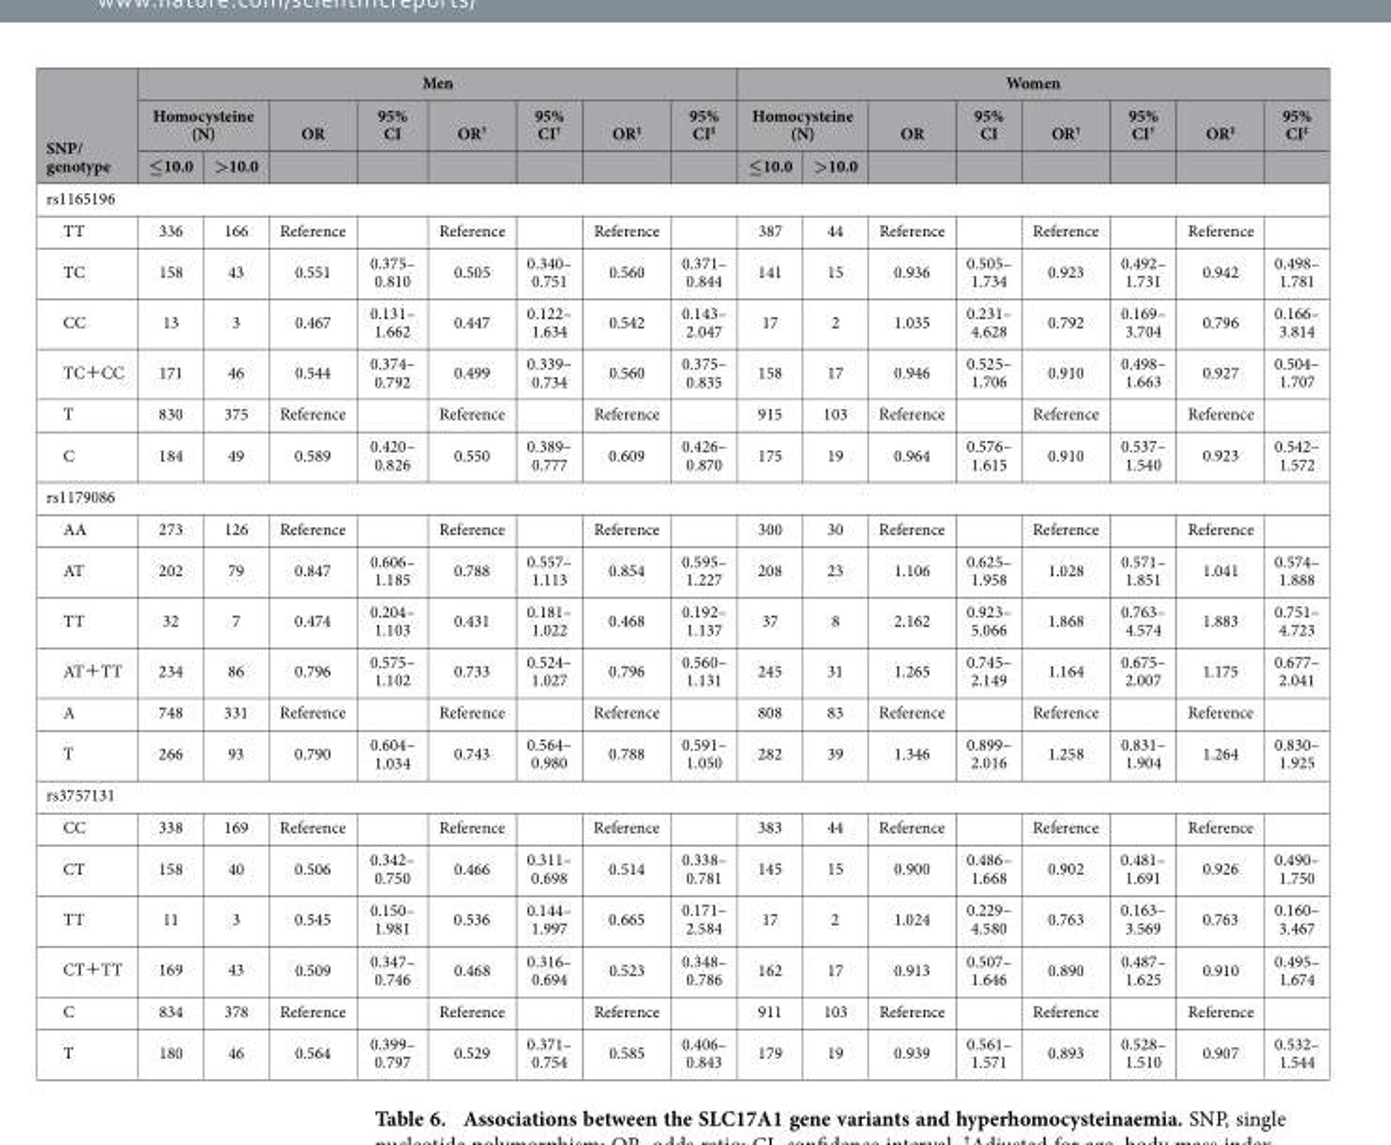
<table><thead><tr><td rowspan="3">SNP/ genotype</td><td colspan="8">Men</td><td colspan="8">Women</td></tr><tr><td colspan="2">Homocysteine (N)</td><td rowspan="2">OR</td><td rowspan="2">95% CI</td><td rowspan="2">OR†</td><td rowspan="2">95% CI†</td><td rowspan="2">OR‡</td><td rowspan="2">95% CI‡</td><td colspan="2">Homocysteine (N)</td><td rowspan="2">OR</td><td rowspan="2">95% CI</td><td rowspan="2">OR†</td><td rowspan="2">95% CI†</td><td rowspan="2">OR‡</td><td rowspan="2">95% CI‡</td></tr><tr><td>≤10.0</td><td>&gt;10.0</td><td>≤10.0</td><td>&gt;10.0</td></tr></thead><tbody><tr><td colspan="17">rs1165196</td></tr><tr><td>TT</td><td>336</td><td>166</td><td>Reference</td><td></td><td>Reference</td><td></td><td>Reference</td><td></td><td>387</td><td>44</td><td>Reference</td><td></td><td>Reference</td><td></td><td>Reference</td><td></td></tr><tr><td>TC</td><td>158</td><td>43</td><td>0.551</td><td>0.375– 0.810</td><td>0.505</td><td>0.340– 0.751</td><td>0.560</td><td>0.371– 0.844</td><td>141</td><td>15</td><td>0.936</td><td>0.505– 1.734</td><td>0.923</td><td>0.492– 1.731</td><td>0.942</td><td>0.498– 1.781</td></tr><tr><td>CC</td><td>13</td><td>3</td><td>0.467</td><td>0.131– 1.662</td><td>0.447</td><td>0.122– 1.634</td><td>0.542</td><td>0.143– 2.047</td><td>17</td><td>2</td><td>1.035</td><td>0.231– 4.628</td><td>0.792</td><td>0.169– 3.704</td><td>0.796</td><td>0.166– 3.814</td></tr><tr><td>TC＋CC</td><td>171</td><td>46</td><td>0.544</td><td>0.374– 0.792</td><td>0.499</td><td>0.339– 0.734</td><td>0.560</td><td>0.375– 0.835</td><td>158</td><td>17</td><td>0.946</td><td>0.525– 1.706</td><td>0.910</td><td>0.498– 1.663</td><td>0.927</td><td>0.504– 1.707</td></tr><tr><td>T</td><td>830</td><td>375</td><td>Reference</td><td></td><td>Reference</td><td></td><td>Reference</td><td></td><td>915</td><td>103</td><td>Reference</td><td></td><td>Reference</td><td></td><td>Reference</td><td></td></tr><tr><td>C</td><td>184</td><td>49</td><td>0.589</td><td>0.420– 0.826</td><td>0.550</td><td>0.389– 0.777</td><td>0.609</td><td>0.426– 0.870</td><td>175</td><td>19</td><td>0.964</td><td>0.576– 1.615</td><td>0.910</td><td>0.537– 1.540</td><td>0.923</td><td>0.542– 1.572</td></tr><tr><td colspan="17">rs1179086</td></tr><tr><td>AA</td><td>273</td><td>126</td><td>Reference</td><td></td><td>Reference</td><td></td><td>Reference</td><td></td><td>300</td><td>30</td><td>Reference</td><td></td><td>Reference</td><td></td><td>Reference</td><td></td></tr><tr><td>AT</td><td>202</td><td>79</td><td>0.847</td><td>0.606– 1.185</td><td>0.788</td><td>0.557– 1.113</td><td>0.854</td><td>0.595– 1.227</td><td>208</td><td>23</td><td>1.106</td><td>0.625– 1.958</td><td>1.028</td><td>0.571– 1.851</td><td>1.041</td><td>0.574– 1.888</td></tr><tr><td>TT</td><td>32</td><td>7</td><td>0.474</td><td>0.204– 1.103</td><td>0.431</td><td>0.181– 1.022</td><td>0.468</td><td>0.192– 1.137</td><td>37</td><td>8</td><td>2.162</td><td>0.923– 5.066</td><td>1.868</td><td>0.763– 4.574</td><td>1.883</td><td>0.751– 4.723</td></tr><tr><td>AT＋TT</td><td>234</td><td>86</td><td>0.796</td><td>0.575– 1.102</td><td>0.733</td><td>0.524– 1.027</td><td>0.796</td><td>0.560– 1.131</td><td>245</td><td>31</td><td>1.265</td><td>0.745– 2.149</td><td>1.164</td><td>0.675– 2.007</td><td>1.175</td><td>0.677– 2.041</td></tr><tr><td>A</td><td>748</td><td>331</td><td>Reference</td><td></td><td>Reference</td><td></td><td>Reference</td><td></td><td>808</td><td>83</td><td>Reference</td><td></td><td>Reference</td><td></td><td>Reference</td><td></td></tr><tr><td>T</td><td>266</td><td>93</td><td>0.790</td><td>0.604– 1.034</td><td>0.743</td><td>0.564– 0.980</td><td>0.788</td><td>0.591– 1.050</td><td>282</td><td>39</td><td>1.346</td><td>0.899– 2.016</td><td>1.258</td><td>0.831– 1.904</td><td>1.264</td><td>0.830– 1.925</td></tr><tr><td colspan="17">rs3757131</td></tr><tr><td>CC</td><td>338</td><td>169</td><td>Reference</td><td></td><td>Reference</td><td></td><td>Reference</td><td></td><td>383</td><td>44</td><td>Reference</td><td></td><td>Reference</td><td></td><td>Reference</td><td></td></tr><tr><td>CT</td><td>158</td><td>40</td><td>0.506</td><td>0.342– 0.750</td><td>0.466</td><td>0.311– 0.698</td><td>0.514</td><td>0.338– 0.781</td><td>145</td><td>15</td><td>0.900</td><td>0.486– 1.668</td><td>0.902</td><td>0.481– 1.691</td><td>0.926</td><td>0.490– 1.750</td></tr><tr><td>TT</td><td>11</td><td>3</td><td>0.545</td><td>0.150– 1.981</td><td>0.536</td><td>0.144– 1.997</td><td>0.665</td><td>0.171– 2.584</td><td>17</td><td>2</td><td>1.024</td><td>0.229– 4.580</td><td>0.763</td><td>0.163– 3.569</td><td>0.763</td><td>0.160– 3.467</td></tr><tr><td>CT＋TT</td><td>169</td><td>43</td><td>0.509</td><td>0.347– 0.746</td><td>0.468</td><td>0.316– 0.694</td><td>0.523</td><td>0.348– 0.786</td><td>162</td><td>17</td><td>0.913</td><td>0.507– 1.646</td><td>0.890</td><td>0.487– 1.625</td><td>0.910</td><td>0.495– 1.674</td></tr><tr><td>C</td><td>834</td><td>378</td><td>Reference</td><td></td><td>Reference</td><td></td><td>Reference</td><td></td><td>911</td><td>103</td><td>Reference</td><td></td><td>Reference</td><td></td><td>Reference</td><td></td></tr><tr><td>T</td><td>180</td><td>46</td><td>0.564</td><td>0.399– 0.797</td><td>0.529</td><td>0.371– 0.754</td><td>0.585</td><td>0.406– 0.843</td><td>179</td><td>19</td><td>0.939</td><td>0.561– 1.571</td><td>0.893</td><td>0.528– 1.510</td><td>0.907</td><td>0.532– 1.544</td></tr></tbody></table>